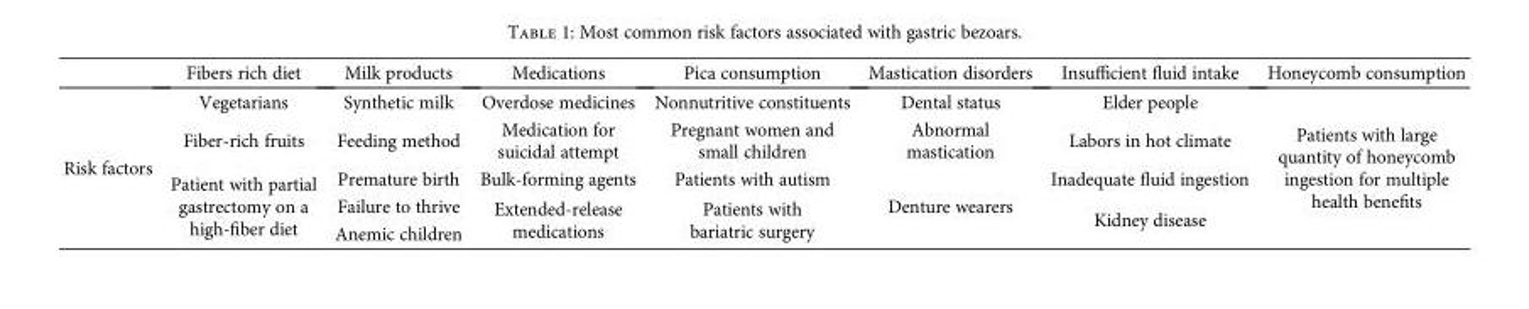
<table><thead><tr><td></td><td>Fibers rich diet</td><td>Milk products</td><td>Medications</td><td>Pica consumption</td><td>Mastication disorders</td><td>Insufficient fluid intake</td><td>Honeycomb consumption</td></tr></thead><tbody><tr><td rowspan="5">Risk factors</td><td>Vegetarians</td><td>Synthetic milk</td><td>Overdose medicines</td><td>Nonnutritive constituents</td><td>Dental status</td><td>Elder people</td><td rowspan="5">Patients with large quantity of honeycomb ingestion for multiple health benefits</td></tr><tr><td>Fiber-rich fruits</td><td>Feeding method</td><td>Medication for suicidal attempt</td><td>Pregnant women and small children</td><td>Abnormal mastication</td><td>Labors in hot climate</td></tr><tr><td rowspan="3">Patient with partial gastrectomy on a high-fiber diet</td><td>Premature birth</td><td>Bulk-forming agents</td><td>Patients with autism</td><td rowspan="3">Denture wearers</td><td>Inadequate fluid ingestion</td></tr><tr><td>Failure to thrive</td><td rowspan="2">Extended-release medications</td><td rowspan="2">Patients with bariatric surgery</td><td rowspan="2">Kidney disease</td></tr><tr><td>Anemic children</td></tr></tbody></table>